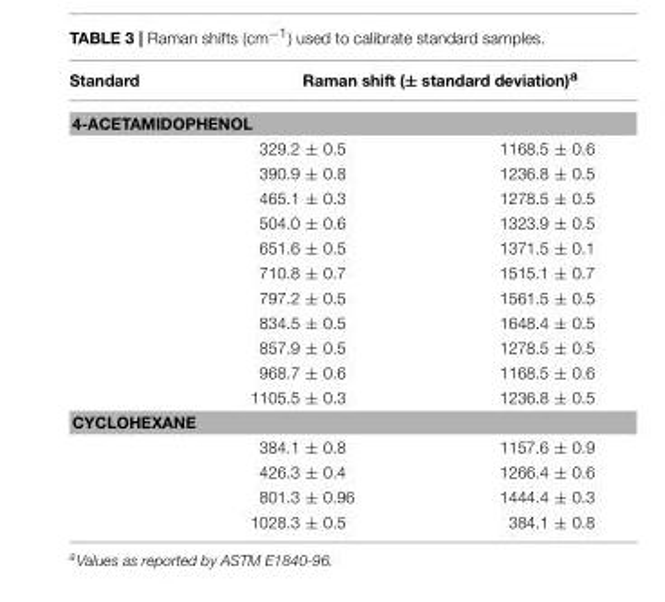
<table><thead><tr><td>Standard</td><td colspan="2">Raman shift (± standard deviation)<sup>a</sup></td></tr><tr><td colspan="3">4-ACETAMIDOPHENOL</td></tr><tr><td></td><td>329.2 ± 0.5</td><td>1168.5 ± 0.6</td></tr></thead><tbody><tr><td></td><td>390.9 ± 0.8</td><td>1236.8 ± 0.5</td></tr><tr><td></td><td>465.1 ± 0.3</td><td>1278.5 ± 0.5</td></tr><tr><td></td><td>504.0 ± 0.6</td><td>1323.9 ± 0.5</td></tr><tr><td></td><td>651.6 ± 0.5</td><td>1371.5 ± 0.1</td></tr><tr><td></td><td>710.8 ± 0.7</td><td>1515.1 ± 0.7</td></tr><tr><td></td><td>797.2 ± 0.5</td><td>1561.5 ± 0.5</td></tr><tr><td></td><td>834.5 ± 0.5</td><td>1648.4 ± 0.5</td></tr><tr><td></td><td>857.9 ± 0.5</td><td>1278.5 ± 0.5</td></tr><tr><td></td><td>968.7 ± 0.6</td><td>1168.5 ± 0.6</td></tr><tr><td></td><td>1105.5 ± 0.3</td><td>1236.8 ± 0.5</td></tr><tr><td colspan="3">CYCLOHEXANE</td></tr><tr><td></td><td>384.1 ± 0.8</td><td>1157.6 ± 0.9</td></tr><tr><td></td><td>426.3 ± 0.4</td><td>1266.4 ± 0.6</td></tr><tr><td></td><td>801.3 ± 0.96</td><td>1444.4 ± 0.3</td></tr><tr><td></td><td>1028.3 ± 0.5</td><td>384.1 ± 0.8</td></tr></tbody></table>